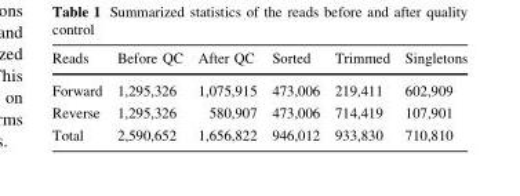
<table><thead><tr><td>Reads</td><td>Before QC</td><td>After QC</td><td>Sorted</td><td>Trimmed</td><td>Singletons</td></tr></thead><tbody><tr><td>Forward</td><td>1,295,326</td><td>1,075,915</td><td>473,006</td><td>219,411</td><td>602,909</td></tr><tr><td>Reverse</td><td>1,295,326</td><td>580,907</td><td>473,006</td><td>714,419</td><td>107,901</td></tr><tr><td>Total</td><td>2,590,652</td><td>1,656,822</td><td>946,012</td><td>933,830</td><td>710,810</td></tr></tbody></table>